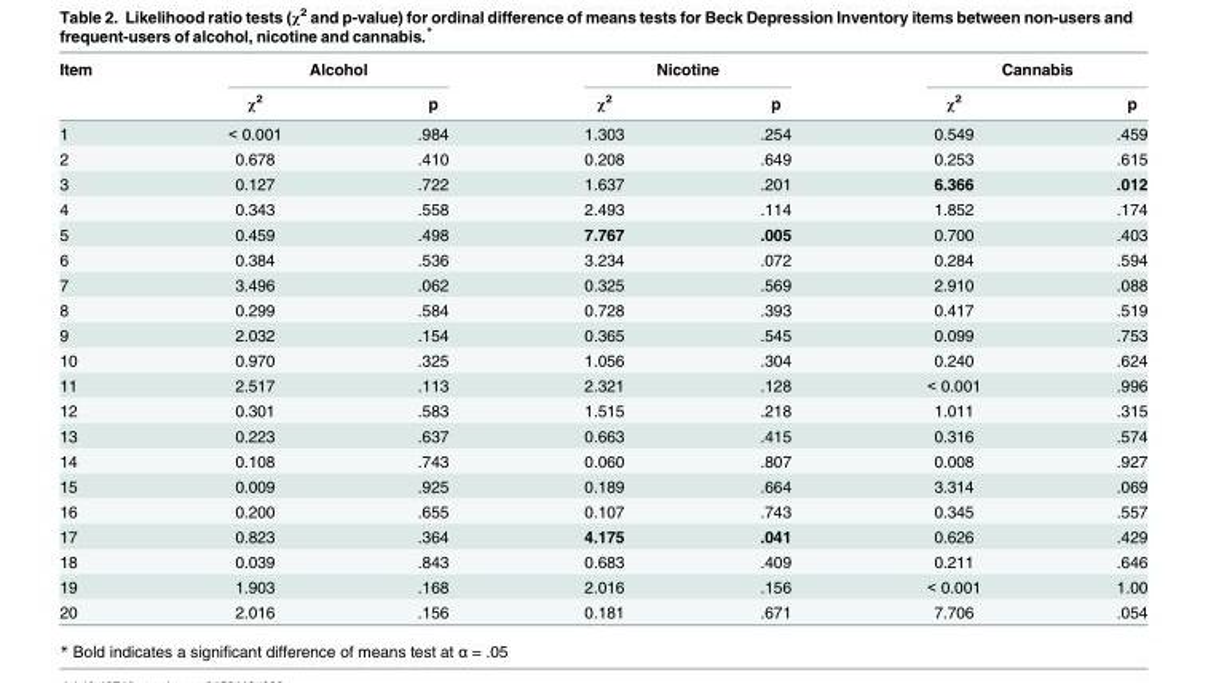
<table><thead><tr><td rowspan="2">Item</td><td colspan="2">Alcohol</td><td colspan="2">Nicotine</td><td colspan="2">Cannabis</td></tr><tr><td>χ<sup>2</sup></td><td>p</td><td>χ<sup>2</sup></td><td>p</td><td>χ<sup>2</sup></td><td>p</td></tr></thead><tbody><tr><td>1</td><td>&lt; 0.001</td><td>.984</td><td>1.303</td><td>.254</td><td>0.549</td><td>.459</td></tr><tr><td>2</td><td>0.678</td><td>.410</td><td>0.208</td><td>.649</td><td>0.253</td><td>.615</td></tr><tr><td>3</td><td>0.127</td><td>.722</td><td>1.637</td><td>.201</td><td>6.366</td><td>.012</td></tr><tr><td>4</td><td>0.343</td><td>.558</td><td>2.493</td><td>.114</td><td>1.852</td><td>.174</td></tr><tr><td>5</td><td>0.459</td><td>.498</td><td>7.767</td><td>.005</td><td>0.700</td><td>.403</td></tr><tr><td>6</td><td>0.384</td><td>.536</td><td>3.234</td><td>.072</td><td>0.284</td><td>.594</td></tr><tr><td>7</td><td>3.496</td><td>.062</td><td>0.325</td><td>.569</td><td>2.910</td><td>.088</td></tr><tr><td>8</td><td>0.299</td><td>.584</td><td>0.728</td><td>.393</td><td>0.417</td><td>.519</td></tr><tr><td>9</td><td>2.032</td><td>.154</td><td>0.365</td><td>.545</td><td>0.099</td><td>.753</td></tr><tr><td>10</td><td>0.970</td><td>.325</td><td>1.056</td><td>.304</td><td>0.240</td><td>.624</td></tr><tr><td>11</td><td>2.517</td><td>.113</td><td>2.321</td><td>.128</td><td>&lt; 0.001</td><td>.996</td></tr><tr><td>12</td><td>0.301</td><td>.583</td><td>1.515</td><td>.218</td><td>1.011</td><td>.315</td></tr><tr><td>13</td><td>0.223</td><td>.637</td><td>0.663</td><td>.415</td><td>0.316</td><td>.574</td></tr><tr><td>14</td><td>0.108</td><td>.743</td><td>0.060</td><td>.807</td><td>0.008</td><td>.927</td></tr><tr><td>15</td><td>0.009</td><td>.925</td><td>0.189</td><td>.664</td><td>3.314</td><td>.069</td></tr><tr><td>16</td><td>0.200</td><td>.655</td><td>0.107</td><td>.743</td><td>0.345</td><td>.557</td></tr><tr><td>17</td><td>0.823</td><td>.364</td><td>4.175</td><td>.041</td><td>0.626</td><td>.429</td></tr><tr><td>18</td><td>0.039</td><td>.843</td><td>0.683</td><td>.409</td><td>0.211</td><td>.646</td></tr><tr><td>19</td><td>1.903</td><td>.168</td><td>2.016</td><td>.156</td><td>&lt; 0.001</td><td>1.00</td></tr><tr><td>20</td><td>2.016</td><td>.156</td><td>0.181</td><td>.671</td><td>7.706</td><td>.054</td></tr></tbody></table>